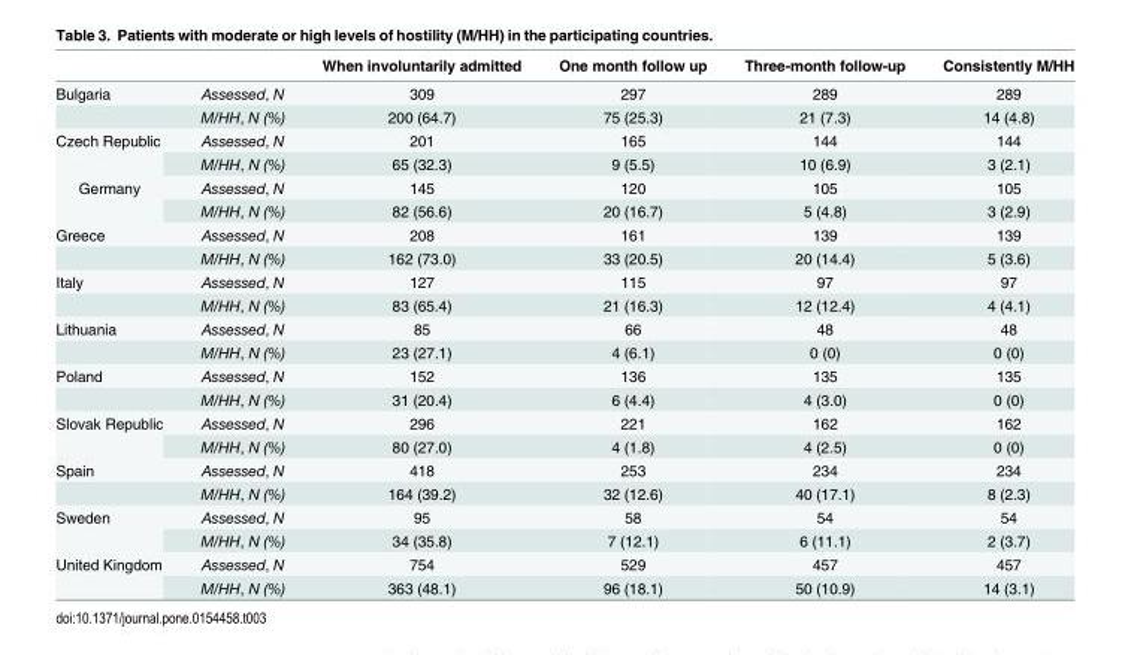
<table><thead><tr><td></td><td></td><td>When involuntarily admitted</td><td>One month follow up</td><td>Three-month follow-up</td><td>Consistently M/HH</td></tr></thead><tbody><tr><td rowspan="2">Bulgaria</td><td>Assessed, N</td><td>309</td><td>297</td><td>289</td><td>289</td></tr><tr><td>M/HH, N (%)</td><td>200 (64.7)</td><td>75 (25.3)</td><td>21 (7.3)</td><td>14 (4.8)</td></tr><tr><td rowspan="2">Czech Republic</td><td>Assessed, N</td><td>201</td><td>165</td><td>144</td><td>144</td></tr><tr><td>M/HH, N (%)</td><td>65 (32.3)</td><td>9 (5.5)</td><td>10 (6.9)</td><td>3 (2.1)</td></tr><tr><td rowspan="2">Germany</td><td>Assessed, N</td><td>145</td><td>120</td><td>105</td><td>105</td></tr><tr><td>M/HH, N (%)</td><td>82 (56.6)</td><td>20 (16.7)</td><td>5 (4.8)</td><td>3 (2.9)</td></tr><tr><td rowspan="2">Greece</td><td>Assessed, N</td><td>208</td><td>161</td><td>139</td><td>139</td></tr><tr><td>M/HH, N (%)</td><td>162 (73.0)</td><td>33 (20.5)</td><td>20 (14.4)</td><td>5 (3.6)</td></tr><tr><td rowspan="2">Italy</td><td>Assessed, N</td><td>127</td><td>115</td><td>97</td><td>97</td></tr><tr><td>M/HH, N (%)</td><td>83 (65.4)</td><td>21 (16.3)</td><td>12 (12.4)</td><td>4 (4.1)</td></tr><tr><td rowspan="2">Lithuania</td><td>Assessed, N</td><td>85</td><td>66</td><td>48</td><td>48</td></tr><tr><td>M/HH, N (%)</td><td>23 (27.1)</td><td>4 (6.1)</td><td>0 (0)</td><td>0 (0)</td></tr><tr><td rowspan="2">Poland</td><td>Assessed, N</td><td>152</td><td>136</td><td>135</td><td>135</td></tr><tr><td>M/HH, N (%)</td><td>31 (20.4)</td><td>6 (4.4)</td><td>4 (3.0)</td><td>0 (0)</td></tr><tr><td rowspan="2">Slovak Republic</td><td>Assessed, N</td><td>296</td><td>221</td><td>162</td><td>162</td></tr><tr><td>M/HH, N (%)</td><td>80 (27.0)</td><td>4 (1.8)</td><td>4 (2.5)</td><td>0 (0)</td></tr><tr><td rowspan="2">Spain</td><td>Assessed, N</td><td>418</td><td>253</td><td>234</td><td>234</td></tr><tr><td>M/HH, N (%)</td><td>164 (39.2)</td><td>32 (12.6)</td><td>40 (17.1)</td><td>8 (2.3)</td></tr><tr><td rowspan="2">Sweden</td><td>Assessed, N</td><td>95</td><td>58</td><td>54</td><td>54</td></tr><tr><td>M/HH, N (%)</td><td>34 (35.8)</td><td>7 (12.1)</td><td>6 (11.1)</td><td>2 (3.7)</td></tr><tr><td rowspan="2">United Kingdom</td><td>Assessed, N</td><td>754</td><td>529</td><td>457</td><td>457</td></tr><tr><td>M/HH, N (%)</td><td>363 (48.1)</td><td>96 (18.1)</td><td>50 (10.9)</td><td>14 (3.1)</td></tr></tbody></table>